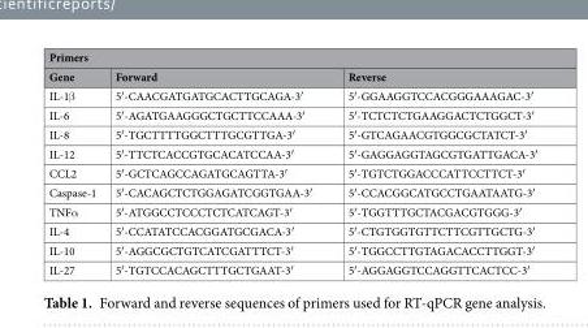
<table><thead><tr><td colspan="3">Primers</td></tr><tr><td>Gene</td><td>Forward</td><td>Reverse</td></tr></thead><tbody><tr><td>IL-1β</td><td>5′-CAACGATGATGCACTTGCAGA-3′</td><td>5′-GGAAGGTCCACGGGAAAGAC-3′</td></tr><tr><td>IL-6</td><td>5′-AGATGAAGGGCTGCTTCCAAA-3′</td><td>5′-TCTCTCTGAAGGACTCTGGCT-3′</td></tr><tr><td>IL-8</td><td>5′-TGCTTTTGGCTTTGCGTTGA-3′</td><td>5′-GTCAGAACGTGGCGCTATCT-3′</td></tr><tr><td>IL-12</td><td>5′-TTCTCACCGTGCACATCCAA-3′</td><td>5′-GAGGAGGTAGCGTGATTGACA-3′</td></tr><tr><td>CCL2</td><td>5′-GCTCAGCCAGATGCAGTTA-3′</td><td>5′-TGTCTGGACCCATTCCTTCT-3′</td></tr><tr><td>Caspase-1</td><td>5′-CACAGCTCTGGAGATCGGTGAA-3′</td><td>5′-CCACGGCATGCCTGAATAATG-3′</td></tr><tr><td>TNFα</td><td>5′-ATGGCCTCCCTCTCATCAGT-3′</td><td>5′-TGGTTTGCTACGACGTGGG-3′</td></tr><tr><td>IL-4</td><td>5′-CCATATCCACGGATGCGACA-3′</td><td>5′-CTGTGGTGTTCTTCGTTGCTG-3′</td></tr><tr><td>IL-10</td><td>5′-AGGCGCTGTCATCGATTTCT-3′</td><td>5′-TGGCCTTGTAGACACCTTGGT-3′</td></tr><tr><td>IL-27</td><td>5′-TGTCCACAGCTTTGCTGAAT-3′</td><td>5′-AGGAGGTCCAGGTTCACTCC-3′</td></tr></tbody></table>